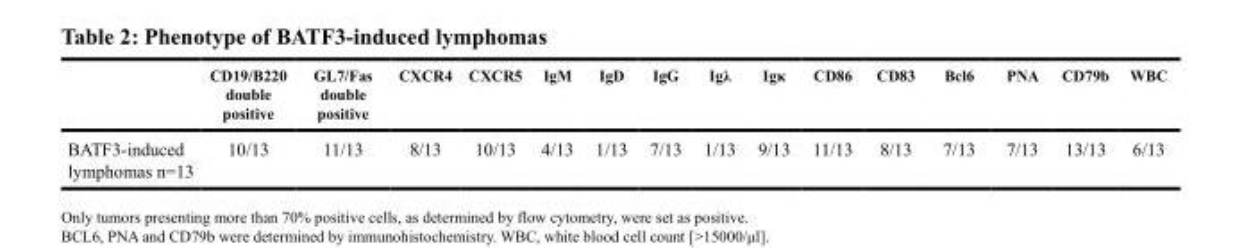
<table><thead><tr><td></td><td>CD19/B220 double positive</td><td>GL7/Fas double positive</td><td>CXCR4</td><td>CXCR5</td><td>IgM</td><td>IgD</td><td>IgG</td><td>Igλ</td><td>Igκ</td><td>CD86</td><td>CD83</td><td>Bcl6</td><td>PNA</td><td>CD79b</td><td>WBC</td></tr></thead><tbody><tr><td>BATF3-induced lymphomas n=13</td><td>10/13</td><td>11/13</td><td>8/13</td><td>10/13</td><td>4/13</td><td>1/13</td><td>7/13</td><td>1/13</td><td>9/13</td><td>11/13</td><td>8/13</td><td>7/13</td><td>7/13</td><td>13/13</td><td>6/13</td></tr></tbody></table>